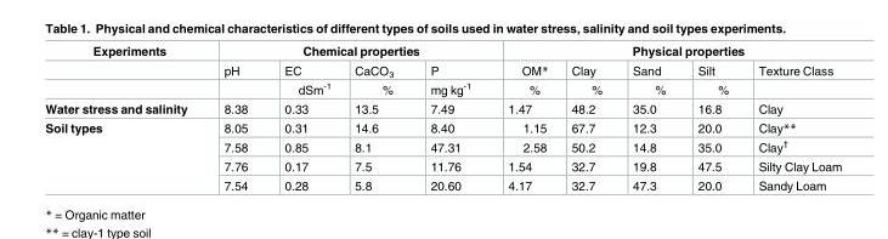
<table><thead><tr><td rowspan="2">Experiments</td><td colspan="4">Chemical properties</td><td colspan="5">Physical properties</td></tr><tr><td>pH</td><td>EC</td><td>CaCO<sub>3</sub></td><td>P</td><td>OM*</td><td>Clay</td><td>Sand</td><td>Silt</td><td>Texture Class</td></tr></thead><tbody><tr><td></td><td></td><td>dSm<sup>-1</sup></td><td>%</td><td>mg kg<sup>-1</sup></td><td>%</td><td>%</td><td>%</td><td>%</td><td></td></tr><tr><td>Water stress and salinity</td><td>8.38</td><td>0.33</td><td>13.5</td><td>7.49</td><td>1.47</td><td>48.2</td><td>35.0</td><td>16.8</td><td>Clay</td></tr><tr><td rowspan="4">Soil types</td><td>8.05</td><td>0.31</td><td>14.6</td><td>8.40</td><td>1.15</td><td>67.7</td><td>12.3</td><td>20.0</td><td>Clay**</td></tr><tr><td>7.58</td><td>0.85</td><td>8.1</td><td>47.31</td><td>2.58</td><td>50.2</td><td>14.8</td><td>35.0</td><td>Clay<sup>†</sup></td></tr><tr><td>7.76</td><td>0.17</td><td>7.5</td><td>11.76</td><td>1.54</td><td>32.7</td><td>19.8</td><td>47.5</td><td>Silty Clay Loam</td></tr><tr><td>7.54</td><td>0.28</td><td>5.8</td><td>20.60</td><td>4.17</td><td>32.7</td><td>47.3</td><td>20.0</td><td>Sandy Loam</td></tr></tbody></table>